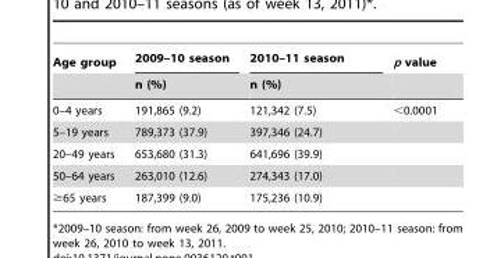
<table><thead><tr><td rowspan="2">Age group</td><td rowspan="2">2009–10 season n (%)</td><td rowspan="2">2010–11 season n (%)</td><td rowspan="2">p value</td></tr><tr></tr></thead><tbody><tr><td>0–4 years</td><td>191,865 (9.2)</td><td>121,342 (7.5)</td><td>&lt;0.0001</td></tr><tr><td>5–19 years</td><td>789,373 (37.9)</td><td>397,346 (24.7)</td><td></td></tr><tr><td>20–49 years</td><td>653,680 (31.3)</td><td>641,696 (39.9)</td><td></td></tr><tr><td>50–64 years</td><td>263,010 (12.6)</td><td>274,343 (17.0)</td><td></td></tr><tr><td>≥65 years</td><td>187,399 (9.0)</td><td>175,236 (10.9)</td><td></td></tr></tbody></table>